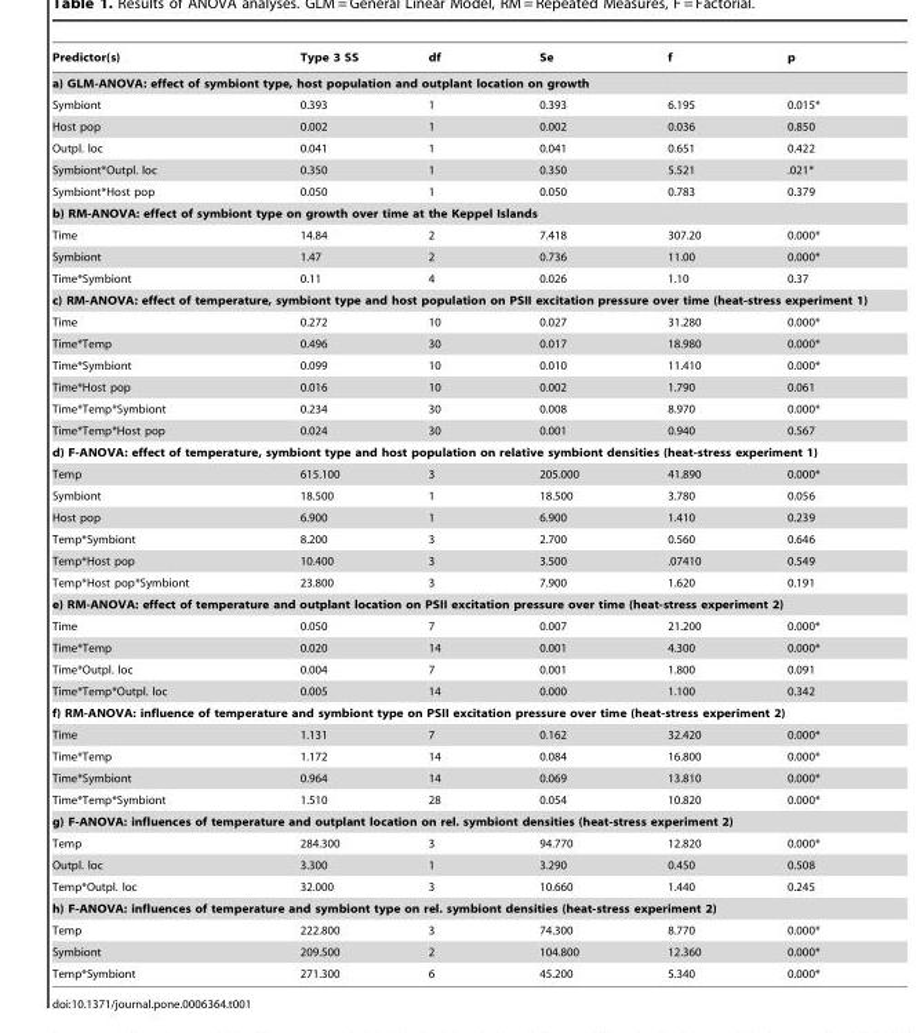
<table><thead><tr><td>Predictor(s)</td><td>Type 3 SS</td><td>df</td><td>Se</td><td>f</td><td>p</td></tr></thead><tbody><tr><td colspan="6">a) GLM-ANOVA: effect of symbiont type, host population and outplant location on growth</td></tr><tr><td>Symbiont</td><td>0.393</td><td>1</td><td>0.393</td><td>6.195</td><td>0.015*</td></tr><tr><td>Host pop</td><td>0.002</td><td>1</td><td>0.002</td><td>0.036</td><td>0.850</td></tr><tr><td>Outpl. loc</td><td>0.041</td><td>1</td><td>0.041</td><td>0.651</td><td>0.422</td></tr><tr><td>Symbiont*Outpl. loc</td><td>0.350</td><td>1</td><td>0.350</td><td>5.521</td><td>.021*</td></tr><tr><td>Symbiont*Host pop</td><td>0.050</td><td>1</td><td>0.050</td><td>0.783</td><td>0.379</td></tr><tr><td colspan="6">b) RM-ANOVA: effect of symbiont type on growth over time at the Keppel Islands</td></tr><tr><td>Time</td><td>14.84</td><td>2</td><td>7.418</td><td>307.20</td><td>0.000*</td></tr><tr><td>Symbiont</td><td>1.47</td><td>2</td><td>0.736</td><td>11.00</td><td>0.000*</td></tr><tr><td>Time*Symbiont</td><td>0.11</td><td>4</td><td>0.026</td><td>1.10</td><td>0.37</td></tr><tr><td colspan="6">c) RM-ANOVA: effect of temperature, symbiont type and host population on PSII excitation pressure over time (heat-stress experiment 1)</td></tr><tr><td>Time</td><td>0.272</td><td>10</td><td>0.027</td><td>31.280</td><td>0.000*</td></tr><tr><td>Time*Temp</td><td>0.496</td><td>30</td><td>0.017</td><td>18.980</td><td>0.000*</td></tr><tr><td>Time*Symbiont</td><td>0.099</td><td>10</td><td>0.010</td><td>11.410</td><td>0.000*</td></tr><tr><td>Time*Host pop</td><td>0.016</td><td>10</td><td>0.002</td><td>1.790</td><td>0.061</td></tr><tr><td>Time*Temp*Symbiont</td><td>0.234</td><td>30</td><td>0.008</td><td>8.970</td><td>0.000*</td></tr><tr><td>Time*Temp*Host pop</td><td>0.024</td><td>30</td><td>0.001</td><td>0.940</td><td>0.567</td></tr><tr><td colspan="6">d) F-ANOVA: effect of temperature, symbiont type and host population on relative symbiont densities (heat-stress experiment 1)</td></tr><tr><td>Temp</td><td>615.100</td><td>3</td><td>205.000</td><td>41.890</td><td>0.000*</td></tr><tr><td>Symbiont</td><td>18.500</td><td>1</td><td>18.500</td><td>3.780</td><td>0.056</td></tr><tr><td>Host pop</td><td>6.900</td><td>1</td><td>6.900</td><td>1.410</td><td>0.239</td></tr><tr><td>Temp*Symbiont</td><td>8.200</td><td>3</td><td>2.700</td><td>0.560</td><td>0.646</td></tr><tr><td>Temp*Host pop</td><td>10.400</td><td>3</td><td>3.500</td><td>.07410</td><td>0.549</td></tr><tr><td>Temp*Host pop*Symbiont</td><td>23.800</td><td>3</td><td>7.900</td><td>1.620</td><td>0.191</td></tr><tr><td colspan="6">e) RM-ANOVA: effect of temperature and outplant location on PSII excitation pressure over time (heat-stress experiment 2)</td></tr><tr><td>Time</td><td>0.050</td><td>7</td><td>0.007</td><td>21.200</td><td>0.000*</td></tr><tr><td>Time*Temp</td><td>0.020</td><td>14</td><td>0.001</td><td>4.300</td><td>0.000*</td></tr><tr><td>Time*Outpl. loc</td><td>0.004</td><td>7</td><td>0.001</td><td>1.800</td><td>0.091</td></tr><tr><td>Time*Temp*Outpl. loc</td><td>0.005</td><td>14</td><td>0.000</td><td>1.100</td><td>0.342</td></tr><tr><td colspan="6">f) RM-ANOVA: influence of temperature and symbiont type on PSII excitation pressure over time (heat-stress experiment 2)</td></tr><tr><td>Time</td><td>1.131</td><td>7</td><td>0.162</td><td>32.420</td><td>0.000*</td></tr><tr><td>Time*Temp</td><td>1.172</td><td>14</td><td>0.084</td><td>16.800</td><td>0.000*</td></tr><tr><td>Time*Symbiont</td><td>0.964</td><td>14</td><td>0.069</td><td>13.810</td><td>0.000*</td></tr><tr><td>Time*Temp*Symbiont</td><td>1.510</td><td>28</td><td>0.054</td><td>10.820</td><td>0.000*</td></tr><tr><td colspan="6">g) F-ANOVA: influences of temperature and outplant location on rel. symbiont densities (heat-stress experiment 2)</td></tr><tr><td>Temp</td><td>284.300</td><td>3</td><td>94.770</td><td>12.820</td><td>0.000*</td></tr><tr><td>Outpl. loc</td><td>3.300</td><td>1</td><td>3.290</td><td>0.450</td><td>0.508</td></tr><tr><td>Temp*Outpl. loc</td><td>32.000</td><td>3</td><td>10.660</td><td>1.440</td><td>0.245</td></tr><tr><td colspan="6">h) F-ANOVA: influences of temperature and symbiont type on rel. symbiont densities (heat-stress experiment 2)</td></tr><tr><td>Temp</td><td>222.800</td><td>3</td><td>74.300</td><td>8.770</td><td>0.000*</td></tr><tr><td>Symbiont</td><td>209.500</td><td>2</td><td>104.800</td><td>12.360</td><td>0.000*</td></tr><tr><td>Temp*Symbiont</td><td>271.300</td><td>6</td><td>45.200</td><td>5.340</td><td>0.000*</td></tr></tbody></table>